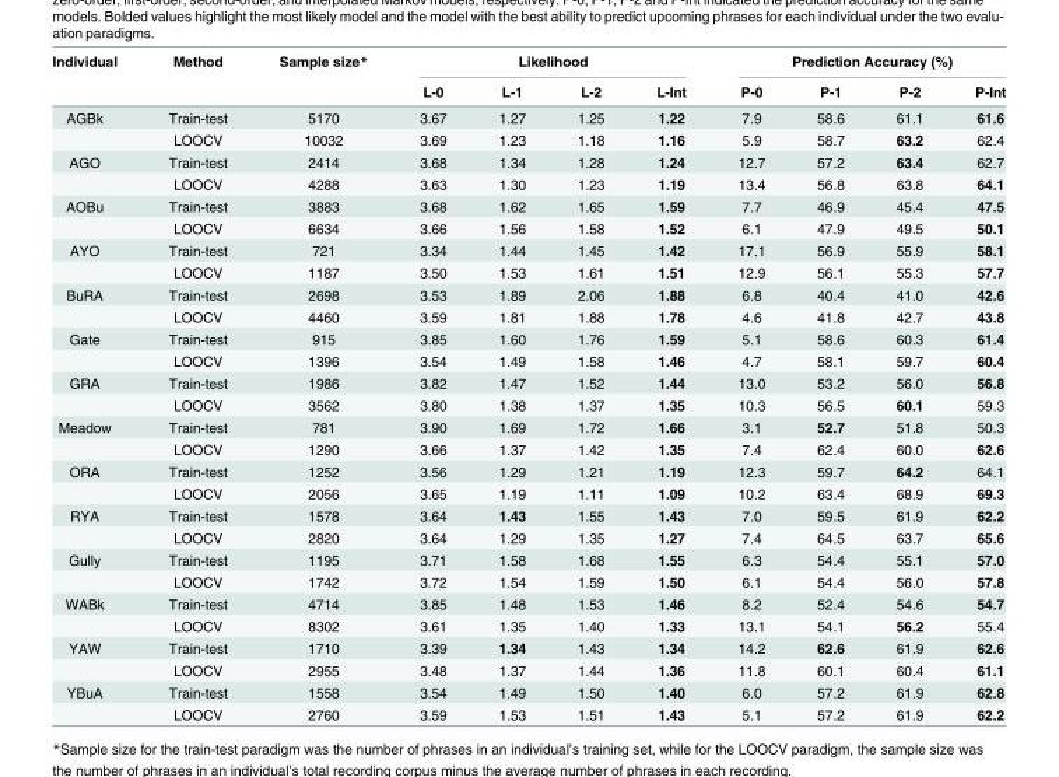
<table><thead><tr><td rowspan="2">Individual</td><td rowspan="2">Method</td><td rowspan="2">Sample size*</td><td colspan="4">Likelihood</td><td colspan="4">Prediction Accuracy (%)</td></tr><tr><td>L-0</td><td>L-1</td><td>L-2</td><td>L-Int</td><td>P-0</td><td>P-1</td><td>P-2</td><td>P-Int</td></tr></thead><tbody><tr><td rowspan="2">AGBk</td><td>Train-test</td><td>5170</td><td>3.67</td><td>1.27</td><td>1.25</td><td>1.22</td><td>7.9</td><td>58.6</td><td>61.1</td><td>61.6</td></tr><tr><td>LOOCV</td><td>10032</td><td>3.69</td><td>1.23</td><td>1.18</td><td>1.16</td><td>5.9</td><td>58.7</td><td>63.2</td><td>62.4</td></tr><tr><td rowspan="2">AGO</td><td>Train-test</td><td>2414</td><td>3.68</td><td>1.34</td><td>1.28</td><td>1.24</td><td>12.7</td><td>57.2</td><td>63.4</td><td>62.7</td></tr><tr><td>LOOCV</td><td>4288</td><td>3.63</td><td>1.30</td><td>1.23</td><td>1.19</td><td>13.4</td><td>56.8</td><td>63.8</td><td>64.1</td></tr><tr><td rowspan="2">AOBu</td><td>Train-test</td><td>3883</td><td>3.68</td><td>1.62</td><td>1.65</td><td>1.59</td><td>7.7</td><td>46.9</td><td>45.4</td><td>47.5</td></tr><tr><td>LOOCV</td><td>6634</td><td>3.66</td><td>1.56</td><td>1.58</td><td>1.52</td><td>6.1</td><td>47.9</td><td>49.5</td><td>50.1</td></tr><tr><td rowspan="2">AYO</td><td>Train-test</td><td>721</td><td>3.34</td><td>1.44</td><td>1.45</td><td>1.42</td><td>17.1</td><td>56.9</td><td>55.9</td><td>58.1</td></tr><tr><td>LOOCV</td><td>1187</td><td>3.50</td><td>1.53</td><td>1.61</td><td>1.51</td><td>12.9</td><td>56.1</td><td>55.3</td><td>57.7</td></tr><tr><td rowspan="2">BuRA</td><td>Train-test</td><td>2698</td><td>3.53</td><td>1.89</td><td>2.06</td><td>1.88</td><td>6.8</td><td>40.4</td><td>41.0</td><td>42.6</td></tr><tr><td>LOOCV</td><td>4460</td><td>3.59</td><td>1.81</td><td>1.88</td><td>1.78</td><td>4.6</td><td>41.8</td><td>42.7</td><td>43.8</td></tr><tr><td rowspan="2">Gate</td><td>Train-test</td><td>915</td><td>3.85</td><td>1.60</td><td>1.76</td><td>1.59</td><td>5.1</td><td>58.6</td><td>60.3</td><td>61.4</td></tr><tr><td>LOOCV</td><td>1396</td><td>3.54</td><td>1.49</td><td>1.58</td><td>1.46</td><td>4.7</td><td>58.1</td><td>59.7</td><td>60.4</td></tr><tr><td rowspan="2">GRA</td><td>Train-test</td><td>1986</td><td>3.82</td><td>1.47</td><td>1.52</td><td>1.44</td><td>13.0</td><td>53.2</td><td>56.0</td><td>56.8</td></tr><tr><td>LOOCV</td><td>3562</td><td>3.80</td><td>1.38</td><td>1.37</td><td>1.35</td><td>10.3</td><td>56.5</td><td>60.1</td><td>59.3</td></tr><tr><td rowspan="2">Meadow</td><td>Train-test</td><td>781</td><td>3.90</td><td>1.69</td><td>1.72</td><td>1.66</td><td>3.1</td><td>52.7</td><td>51.8</td><td>50.3</td></tr><tr><td>LOOCV</td><td>1290</td><td>3.66</td><td>1.37</td><td>1.42</td><td>1.35</td><td>7.4</td><td>62.4</td><td>60.0</td><td>62.6</td></tr><tr><td rowspan="2">ORA</td><td>Train-test</td><td>1252</td><td>3.56</td><td>1.29</td><td>1.21</td><td>1.19</td><td>12.3</td><td>59.7</td><td>64.2</td><td>64.1</td></tr><tr><td>LOOCV</td><td>2056</td><td>3.65</td><td>1.19</td><td>1.11</td><td>1.09</td><td>10.2</td><td>63.4</td><td>68.9</td><td>69.3</td></tr><tr><td rowspan="2">RYA</td><td>Train-test</td><td>1578</td><td>3.64</td><td>1.43</td><td>1.55</td><td>1.43</td><td>7.0</td><td>59.5</td><td>61.9</td><td>62.2</td></tr><tr><td>LOOCV</td><td>2820</td><td>3.64</td><td>1.29</td><td>1.35</td><td>1.27</td><td>7.4</td><td>64.5</td><td>63.7</td><td>65.6</td></tr><tr><td rowspan="2">Gully</td><td>Train-test</td><td>1195</td><td>3.71</td><td>1.58</td><td>1.68</td><td>1.55</td><td>6.3</td><td>54.4</td><td>55.1</td><td>57.0</td></tr><tr><td>LOOCV</td><td>1742</td><td>3.72</td><td>1.54</td><td>1.59</td><td>1.50</td><td>6.1</td><td>54.4</td><td>56.0</td><td>57.8</td></tr><tr><td rowspan="2">WABk</td><td>Train-test</td><td>4714</td><td>3.85</td><td>1.48</td><td>1.53</td><td>1.46</td><td>8.2</td><td>52.4</td><td>54.6</td><td>54.7</td></tr><tr><td>LOOCV</td><td>8302</td><td>3.61</td><td>1.35</td><td>1.40</td><td>1.33</td><td>13.1</td><td>54.1</td><td>56.2</td><td>55.4</td></tr><tr><td rowspan="2">YAW</td><td>Train-test</td><td>1710</td><td>3.39</td><td>1.34</td><td>1.43</td><td>1.34</td><td>14.2</td><td>62.6</td><td>61.9</td><td>62.6</td></tr><tr><td>LOOCV</td><td>2955</td><td>3.48</td><td>1.37</td><td>1.44</td><td>1.36</td><td>11.8</td><td>60.1</td><td>60.4</td><td>61.1</td></tr><tr><td rowspan="2">YBuA</td><td>Train-test</td><td>1558</td><td>3.54</td><td>1.49</td><td>1.50</td><td>1.40</td><td>6.0</td><td>57.2</td><td>61.9</td><td>62.8</td></tr><tr><td>LOOCV</td><td>2760</td><td>3.59</td><td>1.53</td><td>1.51</td><td>1.43</td><td>5.1</td><td>57.2</td><td>61.9</td><td>62.2</td></tr></tbody></table>